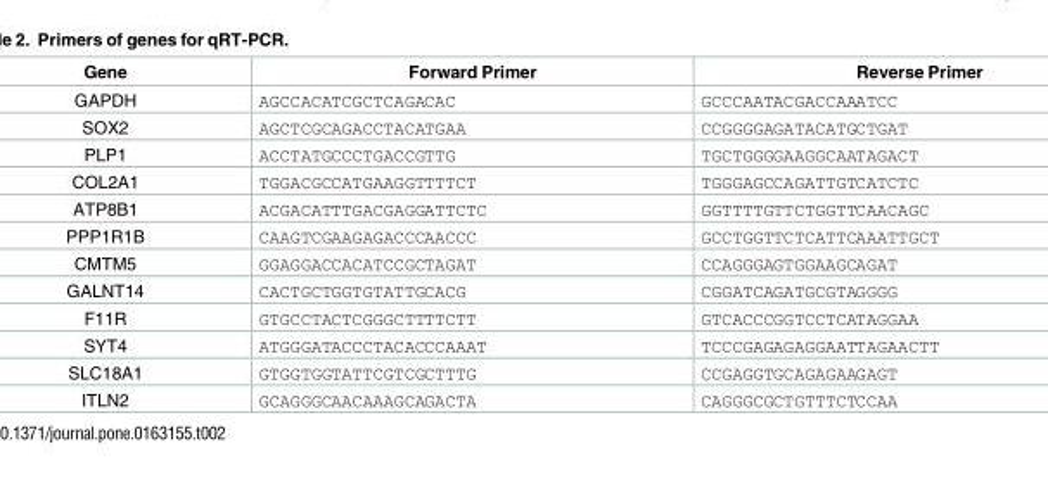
<table><thead><tr><td>Gene</td><td>Forward Primer</td><td>Reverse Primer</td></tr></thead><tbody><tr><td>GAPDH</td><td>AGCCACATCGCTCAGACAC</td><td>GCCCAATACGACCAAATCC</td></tr><tr><td>SOX2</td><td>AGCTCGCAGACCTACATGAA</td><td>CCGGGGAGATACATGCTGAT</td></tr><tr><td>PLP1</td><td>ACCTATGCCCTGACCGTTG</td><td>TGCTGGGGAAGGCAATAGACT</td></tr><tr><td>COL2A1</td><td>TGGACGCCATGAAGGTTTTCT</td><td>TGGGAGCCAGATTGTCATCTC</td></tr><tr><td>ATP8B1</td><td>ACGACATTTGACGAGGATTCTC</td><td>GGTTTTGTTCTGGTTCAACAGC</td></tr><tr><td>PPP1R1B</td><td>CAAGTCGAAGAGACCCAACCC</td><td>GCCTGGTTCTCATTCAAATTGCT</td></tr><tr><td>CMTM5</td><td>GGAGGACCACATCCGCTAGAT</td><td>CCAGGGAGTGGAAGCAGAT</td></tr><tr><td>GALNT14</td><td>CACTGCTGGTGTATTGCACG</td><td>CGGATCAGATGCGTAGGGG</td></tr><tr><td>F11R</td><td>GTGCCTACTCGGGCTTTTCTT</td><td>GTCACCCGGTCCTCATAGGAA</td></tr><tr><td>SYT4</td><td>ATGGGATACCCTACACCCAAAT</td><td>TCCCGAGAGAGGAATTAGAACTT</td></tr><tr><td>SLC18A1</td><td>GTGGTGGTATTCGTCGCTTTG</td><td>CCGAGGTGCAGAGAAGAGT</td></tr><tr><td>ITLN2</td><td>GCAGGGCAACAAAGCAGACTA</td><td>CAGGGCGCTGTTTCTCCAA</td></tr></tbody></table>